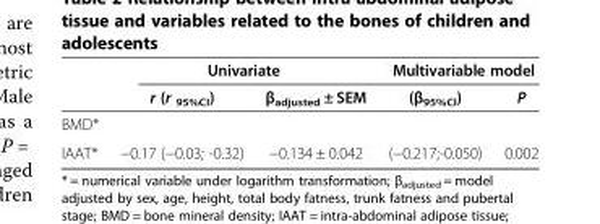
<table><thead><tr><td rowspan="2"></td><td colspan="2">Univariate</td><td colspan="2">Multivariable model</td></tr><tr><td>r (r <sub>95%CI</sub>)</td><td>β<sub>adjusted</sub> ± SEM</td><td>(β<sub>95%CI</sub>)</td><td>P</td></tr></thead><tbody><tr><td colspan="5">BMD*</td></tr><tr><td>IAAT*</td><td>−0.17 (−0.03; -0.32)</td><td>−0.134 ± 0.042</td><td>(−0.217;-0.050)</td><td>0.002</td></tr></tbody></table>